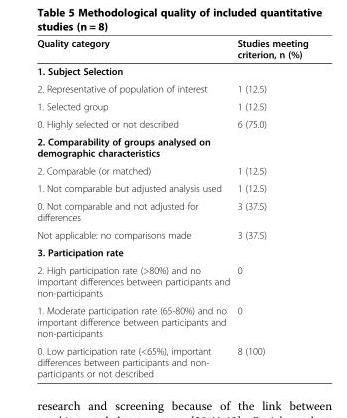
<table><thead><tr><td>Quality category</td><td>Studies meeting criterion, n (%)</td></tr></thead><tbody><tr><td colspan="2">1. Subject Selection</td></tr><tr><td>2. Representative of population of interest</td><td>1 (12.5)</td></tr><tr><td>1. Selected group</td><td>1 (12.5)</td></tr><tr><td>0. Highly selected or not described</td><td>6 (75.0)</td></tr><tr><td colspan="2">2. Comparability of groups analysed on demographic characteristics</td></tr><tr><td>2. Comparable (or matched)</td><td>1 (12.5)</td></tr><tr><td>1. Not comparable but adjusted analysis used</td><td>1 (12.5)</td></tr><tr><td>0. Not comparable and not adjusted for differences</td><td>3 (37.5)</td></tr><tr><td>Not applicable: no comparisons made</td><td>3 (37.5)</td></tr><tr><td colspan="2">3. Participation rate</td></tr><tr><td>2. High participation rate (&gt;80%) and no important differences between participants and non-participants</td><td>0</td></tr><tr><td>1. Moderate participation rate (65-80%) and no important difference between participants and non-participants</td><td>0</td></tr><tr><td>0. Low participation rate (&lt;65%), important differences between participants and non- participants or not described</td><td>8 (100)</td></tr></tbody></table>